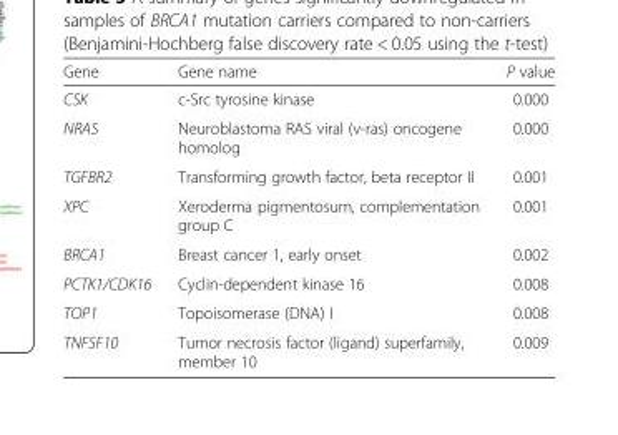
<table><thead><tr><td>Gene</td><td>Gene name</td><td>P value</td></tr></thead><tbody><tr><td>CSK</td><td>c-Src tyrosine kinase</td><td>0.000</td></tr><tr><td>NRAS</td><td>Neuroblastoma RAS viral (v-ras) oncogene homolog</td><td>0.000</td></tr><tr><td>TGFBR2</td><td>Transforming growth factor, beta receptor II</td><td>0.001</td></tr><tr><td>XPC</td><td>Xeroderma pigmentosum, complementation group C</td><td>0.001</td></tr><tr><td>BRCA1</td><td>Breast cancer 1, early onset</td><td>0.002</td></tr><tr><td>PCTK1/CDK16</td><td>Cyclin-dependent kinase 16</td><td>0.008</td></tr><tr><td>TOP1</td><td>Topoisomerase (DNA) I</td><td>0.008</td></tr><tr><td>TNFSF10</td><td>Tumor necrosis factor (ligand) superfamily, member 10</td><td>0.009</td></tr></tbody></table>